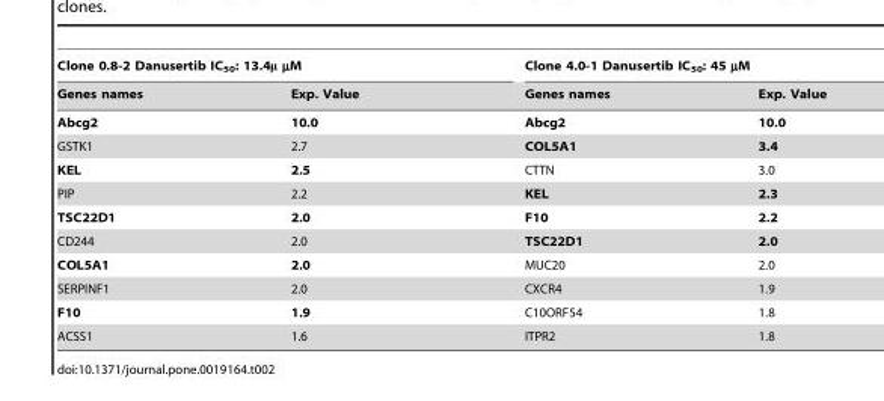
<table><thead><tr><td colspan="2">Clone 0.8-2 Danusertib IC<sub>50</sub>: 13.4μ µM</td><td colspan="2">Clone 4.0-1 Danusertib IC<sub>50</sub>: 45 µM</td></tr><tr><td>Genes names</td><td>Exp. Value</td><td>Genes names</td><td>Exp. Value</td></tr></thead><tbody><tr><td>Abcg2</td><td>10.0</td><td>Abcg2</td><td>10.0</td></tr><tr><td>GSTK1</td><td>2.7</td><td>COL5A1</td><td>3.4</td></tr><tr><td>KEL</td><td>2.5</td><td>CTTN</td><td>3.0</td></tr><tr><td>PIP</td><td>2.2</td><td>KEL</td><td>2.3</td></tr><tr><td>TSC22D1</td><td>2.0</td><td>F10</td><td>2.2</td></tr><tr><td>CD244</td><td>2.0</td><td>TSC22D1</td><td>2.0</td></tr><tr><td>COL5A1</td><td>2.0</td><td>MUC20</td><td>2.0</td></tr><tr><td>SERPINF1</td><td>2.0</td><td>CXCR4</td><td>1.9</td></tr><tr><td>F10</td><td>1.9</td><td>C10ORF54</td><td>1.8</td></tr><tr><td>ACSS1</td><td>1.6</td><td>ITPR2</td><td>1.8</td></tr></tbody></table>